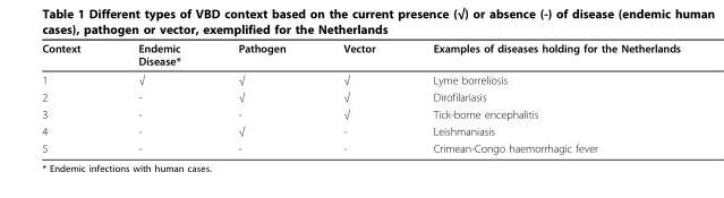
<table><thead><tr><td>Context</td><td>Endemic Disease*</td><td>Pathogen</td><td>Vector</td><td>Examples of diseases holding for the Netherlands</td></tr></thead><tbody><tr><td>1</td><td>√</td><td>√</td><td>√</td><td>Lyme borreliosis</td></tr><tr><td>2</td><td>-</td><td>√</td><td>√</td><td>Dirofilariasis</td></tr><tr><td>3</td><td>-</td><td>-</td><td>√</td><td>Tick-borne encephalitis</td></tr><tr><td>4</td><td>-</td><td>√</td><td>-</td><td>Leishmaniasis</td></tr><tr><td>5</td><td>-</td><td>-</td><td>-</td><td>Crimean-Congo haemorrhagic fever</td></tr></tbody></table>